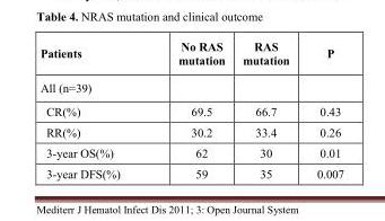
<table><thead><tr><td>Patients</td><td>No RAS mutation</td><td>RAS mutation</td><td>P</td></tr></thead><tbody><tr><td colspan="4">All (n=39)</td></tr><tr><td>CR(%)</td><td>69.5</td><td>66.7</td><td>0.43</td></tr><tr><td>RR(%)</td><td>30.2</td><td>33.4</td><td>0.26</td></tr><tr><td>3-year OS(%)</td><td>62</td><td>30</td><td>0.01</td></tr><tr><td>3-year DFS(%)</td><td>59</td><td>35</td><td>0.007</td></tr></tbody></table>